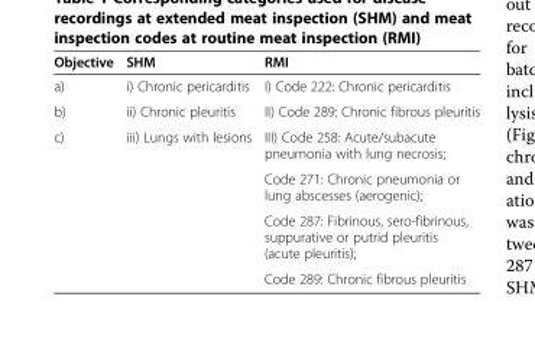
<table><thead><tr><td>Objective</td><td>SHM</td><td>RMI</td></tr></thead><tbody><tr><td>a)</td><td>i) Chronic pericarditis</td><td>I) Code 222: Chronic pericarditis</td></tr><tr><td>b)</td><td>ii) Chronic pleuritis</td><td>II) Code 289: Chronic fibrous pleuritis</td></tr><tr><td rowspan="4">c)</td><td rowspan="4">iii) Lungs with lesions</td><td>III) Code 258: Acute/subacute pneumonia with lung necrosis;</td></tr><tr><td>Code 271: Chronic pneumonia or lung abscesses (aerogenic);</td></tr><tr><td>Code 287: Fibrinous, sero-fibrinous, suppurative or putrid pleuritis (acute pleuritis);</td></tr><tr><td>Code 289: Chronic fibrous pleuritis</td></tr></tbody></table>